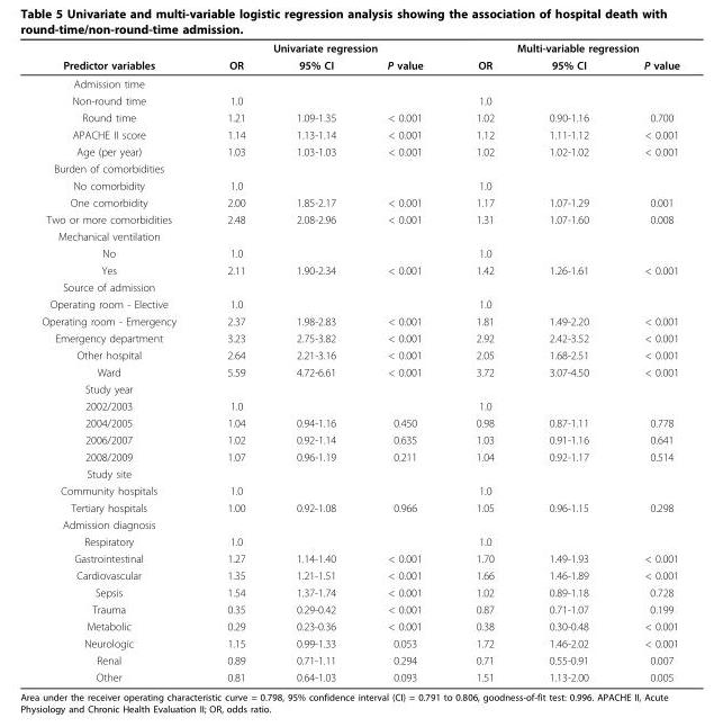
<table><thead><tr><td rowspan="2">Predictor variables</td><td colspan="3">Univariate regression</td><td colspan="3">Multi-variable regression</td></tr><tr><td>OR</td><td>95% CI</td><td>P value</td><td>OR</td><td>95% CI</td><td>P value</td></tr></thead><tbody><tr><td colspan="7">Admission time</td></tr><tr><td>Non-round time</td><td>1.0</td><td></td><td></td><td>1.0</td><td></td><td></td></tr><tr><td>Round time</td><td>1.21</td><td>1.09-1.35</td><td>&lt; 0.001</td><td>1.02</td><td>0.90-1.16</td><td>0.700</td></tr><tr><td>APACHE II score</td><td>1.14</td><td>1.13-1.14</td><td>&lt; 0.001</td><td>1.12</td><td>1.11-1.12</td><td>&lt; 0.001</td></tr><tr><td>Age (per year)</td><td>1.03</td><td>1.03-1.03</td><td>&lt; 0.001</td><td>1.02</td><td>1.02-1.02</td><td>&lt; 0.001</td></tr><tr><td colspan="7">Burden of comorbidities</td></tr><tr><td>No comorbidity</td><td>1.0</td><td></td><td></td><td>1.0</td><td></td><td></td></tr><tr><td>One comorbidity</td><td>2.00</td><td>1.85-2.17</td><td>&lt; 0.001</td><td>1.17</td><td>1.07-1.29</td><td>0.001</td></tr><tr><td>Two or more comorbidities</td><td>2.48</td><td>2.08-2.96</td><td>&lt; 0.001</td><td>1.31</td><td>1.07-1.60</td><td>0.008</td></tr><tr><td colspan="7">Mechanical ventilation</td></tr><tr><td>No</td><td>1.0</td><td></td><td></td><td>1.0</td><td></td><td></td></tr><tr><td>Yes</td><td>2.11</td><td>1.90-2.34</td><td>&lt; 0.001</td><td>1.42</td><td>1.26-1.61</td><td>&lt; 0.001</td></tr><tr><td colspan="7">Source of admission</td></tr><tr><td>Operating room - Elective</td><td>1.0</td><td></td><td></td><td>1.0</td><td></td><td></td></tr><tr><td>Operating room - Emergency</td><td>2.37</td><td>1.98-2.83</td><td>&lt; 0.001</td><td>1.81</td><td>1.49-2.20</td><td>&lt; 0.001</td></tr><tr><td>Emergency department</td><td>3.23</td><td>2.75-3.82</td><td>&lt; 0.001</td><td>2.92</td><td>2.42-3.52</td><td>&lt; 0.001</td></tr><tr><td>Other hospital</td><td>2.64</td><td>2.21-3.16</td><td>&lt; 0.001</td><td>2.05</td><td>1.68-2.51</td><td>&lt; 0.001</td></tr><tr><td>Ward</td><td>5.59</td><td>4.72-6.61</td><td>&lt; 0.001</td><td>3.72</td><td>3.07-4.50</td><td>&lt; 0.001</td></tr><tr><td colspan="7">Study year</td></tr><tr><td>2002/2003</td><td>1.0</td><td></td><td></td><td>1.0</td><td></td><td></td></tr><tr><td>2004/2005</td><td>1.04</td><td>0.94-1.16</td><td>0.450</td><td>0.98</td><td>0.87-1.11</td><td>0.778</td></tr><tr><td>2006/2007</td><td>1.02</td><td>0.92-1.14</td><td>0.635</td><td>1.03</td><td>0.91-1.16</td><td>0.641</td></tr><tr><td>2008/2009</td><td>1.07</td><td>0.96-1.19</td><td>0.211</td><td>1.04</td><td>0.92-1.17</td><td>0.514</td></tr><tr><td colspan="7">Study site</td></tr><tr><td>Community hospitals</td><td>1.0</td><td></td><td></td><td>1.0</td><td></td><td></td></tr><tr><td>Tertiary hospitals</td><td>1.00</td><td>0.92-1.08</td><td>0.966</td><td>1.05</td><td>0.96-1.15</td><td>0.298</td></tr><tr><td colspan="7">Admission diagnosis</td></tr><tr><td>Respiratory</td><td>1.0</td><td></td><td></td><td>1.0</td><td></td><td></td></tr><tr><td>Gastrointestinal</td><td>1.27</td><td>1.14-1.40</td><td>&lt; 0.001</td><td>1.70</td><td>1.49-1.93</td><td>&lt; 0.001</td></tr><tr><td>Cardiovascular</td><td>1.35</td><td>1.21-1.51</td><td>&lt; 0.001</td><td>1.66</td><td>1.46-1.89</td><td>&lt; 0.001</td></tr><tr><td>Sepsis</td><td>1.54</td><td>1.37-1.74</td><td>&lt; 0.001</td><td>1.02</td><td>0.89-1.18</td><td>0.728</td></tr><tr><td>Trauma</td><td>0.35</td><td>0.29-0.42</td><td>&lt; 0.001</td><td>0.87</td><td>0.71-1.07</td><td>0.199</td></tr><tr><td>Metabolic</td><td>0.29</td><td>0.23-0.36</td><td>&lt; 0.001</td><td>0.38</td><td>0.30-0.48</td><td>&lt; 0.001</td></tr><tr><td>Neurologic</td><td>1.15</td><td>0.99-1.33</td><td>0.053</td><td>1.72</td><td>1.46-2.02</td><td>&lt; 0.001</td></tr><tr><td>Renal</td><td>0.89</td><td>0.71-1.11</td><td>0.294</td><td>0.71</td><td>0.55-0.91</td><td>0.007</td></tr><tr><td>Other</td><td>0.81</td><td>0.64-1.03</td><td>0.093</td><td>1.51</td><td>1.13-2.00</td><td>0.005</td></tr></tbody></table>